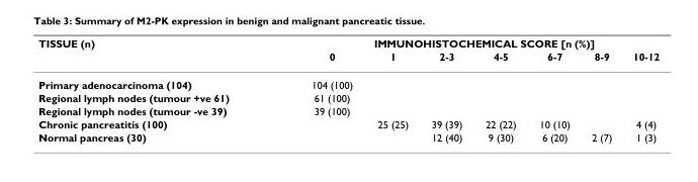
<table><thead><tr><td rowspan="2">TISSUE (n)</td><td colspan="7">IMMUNOHISTOCHEMICAL SCORE [n (%)]</td></tr><tr><td>0</td><td>1</td><td>2-3</td><td>4-5</td><td>6-7</td><td>8-9</td><td>10-12</td></tr></thead><tbody><tr><td>Primary adenocarcinoma (104)</td><td>104 (100)</td><td></td><td></td><td></td><td></td><td></td><td></td></tr><tr><td>Regional lymph nodes (tumour +ve 61)</td><td>61 (100)</td><td></td><td></td><td></td><td></td><td></td><td></td></tr><tr><td>Regional lymph nodes (tumour -ve 39)</td><td>39 (100)</td><td></td><td></td><td></td><td></td><td></td><td></td></tr><tr><td>Chronic pancreatitis (100)</td><td></td><td>25 (25)</td><td>39 (39)</td><td>22 (22)</td><td>10 (10)</td><td></td><td>4 (4)</td></tr><tr><td>Normal pancreas (30)</td><td></td><td></td><td>12 (40)</td><td>9 (30)</td><td>6 (20)</td><td>2 (7)</td><td>1 (3)</td></tr></tbody></table>